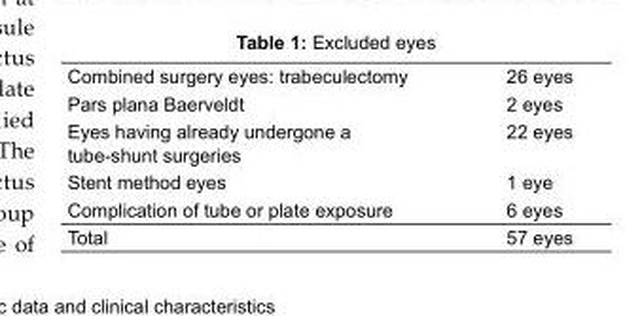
<table><tbody><tr><td>Combined surgery eyes: trabeculectomy</td><td>26 eyes</td></tr><tr><td>Pars plana Baerveldt</td><td>2 eyes</td></tr><tr><td>Eyes having already undergone a</td><td>22 eyes</td></tr><tr><td colspan="2">tube-shunt surgeries</td></tr><tr><td>Stent method eyes</td><td>1 eye</td></tr><tr><td>Complication of tube or plate exposure</td><td>6 eyes</td></tr><tr><td>Total</td><td>57 eyes</td></tr></tbody></table>